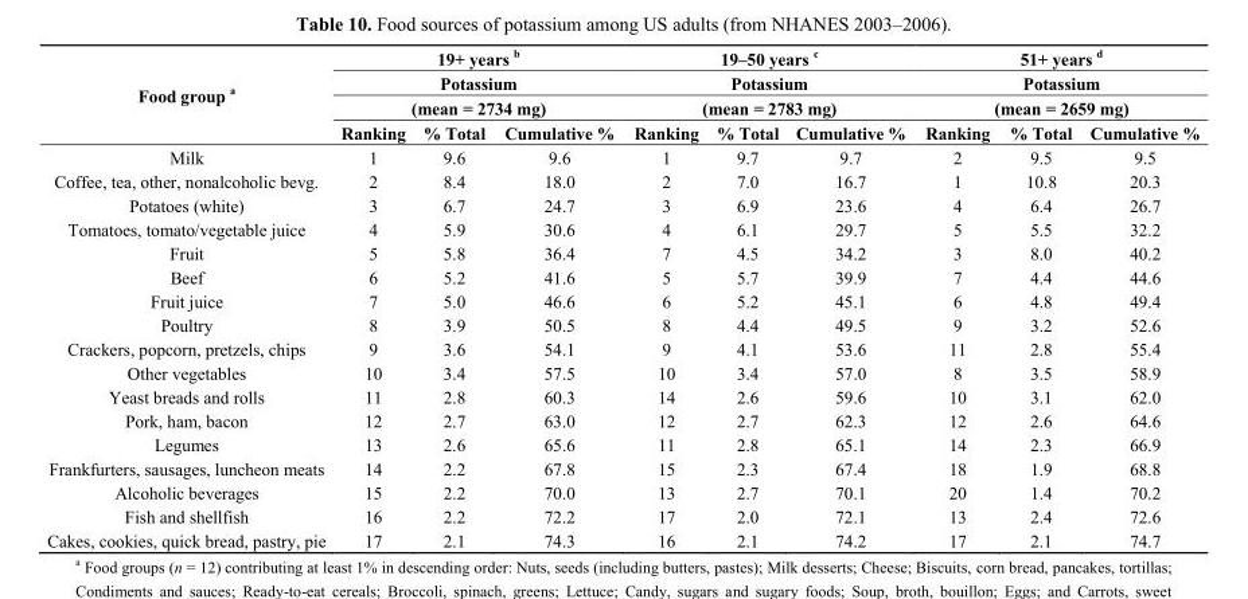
<table><thead><tr><td rowspan="4">Food group <sup>a</sup></td><td rowspan="3" colspan="3">19+ years <sup>b</sup> Potassium (mean = 2734 mg)</td><td rowspan="3" colspan="3">19–50 years <sup>c</sup> Potassium (mean = 2783 mg)</td><td rowspan="3" colspan="3">51+ years <sup>d</sup> Potassium (mean = 2659 mg)</td></tr><tr></tr><tr></tr><tr><td>Ranking</td><td>% Total</td><td>Cumulative %</td><td>Ranking</td><td>% Total</td><td>Cumulative %</td><td>Ranking</td><td>% Total</td><td>Cumulative %</td></tr></thead><tbody><tr><td>Milk</td><td>1</td><td>9.6</td><td>9.6</td><td>1</td><td>9.7</td><td>9.7</td><td>2</td><td>9.5</td><td>9.5</td></tr><tr><td>Coffee, tea, other, nonalcoholic bevg.</td><td>2</td><td>8.4</td><td>18.0</td><td>2</td><td>7.0</td><td>16.7</td><td>1</td><td>10.8</td><td>20.3</td></tr><tr><td>Potatoes (white)</td><td>3</td><td>6.7</td><td>24.7</td><td>3</td><td>6.9</td><td>23.6</td><td>4</td><td>6.4</td><td>26.7</td></tr><tr><td>Tomatoes, tomato/vegetable juice</td><td>4</td><td>5.9</td><td>30.6</td><td>4</td><td>6.1</td><td>29.7</td><td>5</td><td>5.5</td><td>32.2</td></tr><tr><td>Fruit</td><td>5</td><td>5.8</td><td>36.4</td><td>7</td><td>4.5</td><td>34.2</td><td>3</td><td>8.0</td><td>40.2</td></tr><tr><td>Beef</td><td>6</td><td>5.2</td><td>41.6</td><td>5</td><td>5.7</td><td>39.9</td><td>7</td><td>4.4</td><td>44.6</td></tr><tr><td>Fruit juice</td><td>7</td><td>5.0</td><td>46.6</td><td>6</td><td>5.2</td><td>45.1</td><td>6</td><td>4.8</td><td>49.4</td></tr><tr><td>Poultry</td><td>8</td><td>3.9</td><td>50.5</td><td>8</td><td>4.4</td><td>49.5</td><td>9</td><td>3.2</td><td>52.6</td></tr><tr><td>Crackers, popcorn, pretzels, chips</td><td>9</td><td>3.6</td><td>54.1</td><td>9</td><td>4.1</td><td>53.6</td><td>11</td><td>2.8</td><td>55.4</td></tr><tr><td>Other vegetables</td><td>10</td><td>3.4</td><td>57.5</td><td>10</td><td>3.4</td><td>57.0</td><td>8</td><td>3.5</td><td>58.9</td></tr><tr><td>Yeast breads and rolls</td><td>11</td><td>2.8</td><td>60.3</td><td>14</td><td>2.6</td><td>59.6</td><td>10</td><td>3.1</td><td>62.0</td></tr><tr><td>Pork, ham, bacon</td><td>12</td><td>2.7</td><td>63.0</td><td>12</td><td>2.7</td><td>62.3</td><td>12</td><td>2.6</td><td>64.6</td></tr><tr><td>Legumes</td><td>13</td><td>2.6</td><td>65.6</td><td>11</td><td>2.8</td><td>65.1</td><td>14</td><td>2.3</td><td>66.9</td></tr><tr><td>Frankfurters, sausages, luncheon meats</td><td>14</td><td>2.2</td><td>67.8</td><td>15</td><td>2.3</td><td>67.4</td><td>18</td><td>1.9</td><td>68.8</td></tr><tr><td>Alcoholic beverages</td><td>15</td><td>2.2</td><td>70.0</td><td>13</td><td>2.7</td><td>70.1</td><td>20</td><td>1.4</td><td>70.2</td></tr><tr><td>Fish and shellfish</td><td>16</td><td>2.2</td><td>72.2</td><td>17</td><td>2.0</td><td>72.1</td><td>13</td><td>2.4</td><td>72.6</td></tr><tr><td>Cakes, cookies, quick bread, pastry, pie</td><td>17</td><td>2.1</td><td>74.3</td><td>16</td><td>2.1</td><td>74.2</td><td>17</td><td>2.1</td><td>74.7</td></tr></tbody></table>